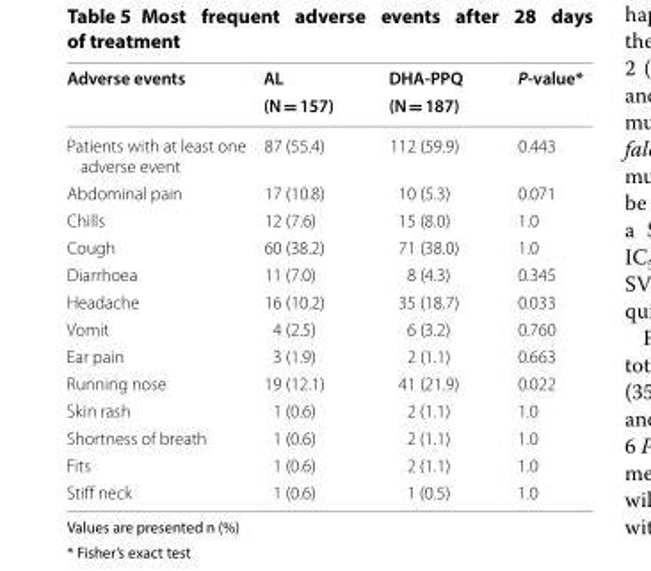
<table><thead><tr><td rowspan="2">Adverse events</td><td rowspan="2">AL (N = 157)</td><td rowspan="2">DHA‑PPQ (N = 187)</td><td rowspan="2">P‑value*</td></tr><tr></tr></thead><tbody><tr><td>Patients with at least one adverse event</td><td>87 (55.4)</td><td>112 (59.9)</td><td>0.443</td></tr><tr><td>Abdominal pain</td><td>17 (10.8)</td><td>10 (5.3)</td><td>0.071</td></tr><tr><td>Chills</td><td>12 (7.6)</td><td>15 (8.0)</td><td>1.0</td></tr><tr><td>Cough</td><td>60 (38.2)</td><td>71 (38.0)</td><td>1.0</td></tr><tr><td>Diarrhoea</td><td>11 (7.0)</td><td>8 (4.3)</td><td>0.345</td></tr><tr><td>Headache</td><td>16 (10.2)</td><td>35 (18.7)</td><td>0.033</td></tr><tr><td>Vomit</td><td>4 (2.5)</td><td>6 (3.2)</td><td>0.760</td></tr><tr><td>Ear pain</td><td>3 (1.9)</td><td>2 (1.1)</td><td>0.663</td></tr><tr><td>Running nose</td><td>19 (12.1)</td><td>41 (21.9)</td><td>0.022</td></tr><tr><td>Skin rash</td><td>1 (0.6)</td><td>2 (1.1)</td><td>1.0</td></tr><tr><td>Shortness of breath</td><td>1 (0.6)</td><td>2 (1.1)</td><td>1.0</td></tr><tr><td>Fits</td><td>1 (0.6)</td><td>2 (1.1)</td><td>1.0</td></tr><tr><td>Stiff neck</td><td>1 (0.6)</td><td>1 (0.5)</td><td>1.0</td></tr></tbody></table>